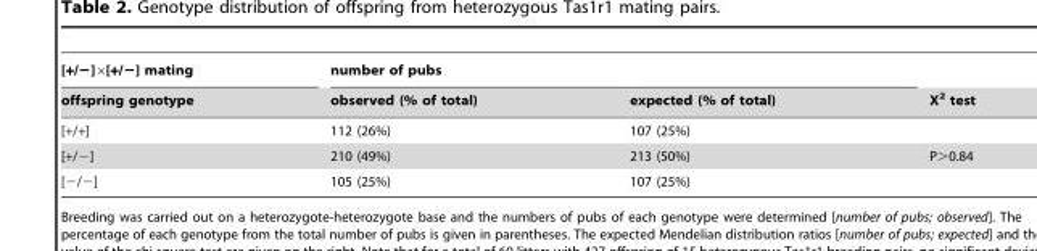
<table><thead><tr><td rowspan="2">[+/−]×[+/−] mating offspring genotype</td><td colspan="2">number of pubs</td><td rowspan="2">X<sup>2</sup> test</td></tr><tr><td>observed (% of total)</td><td>expected (% of total)</td></tr></thead><tbody><tr><td>[+/+]</td><td>112 (26%)</td><td>107 (25%)</td><td></td></tr><tr><td>[+/−]</td><td>210 (49%)</td><td>213 (50%)</td><td>P&gt;0.84</td></tr><tr><td>[−/−]</td><td>105 (25%)</td><td>107 (25%)</td><td></td></tr></tbody></table>